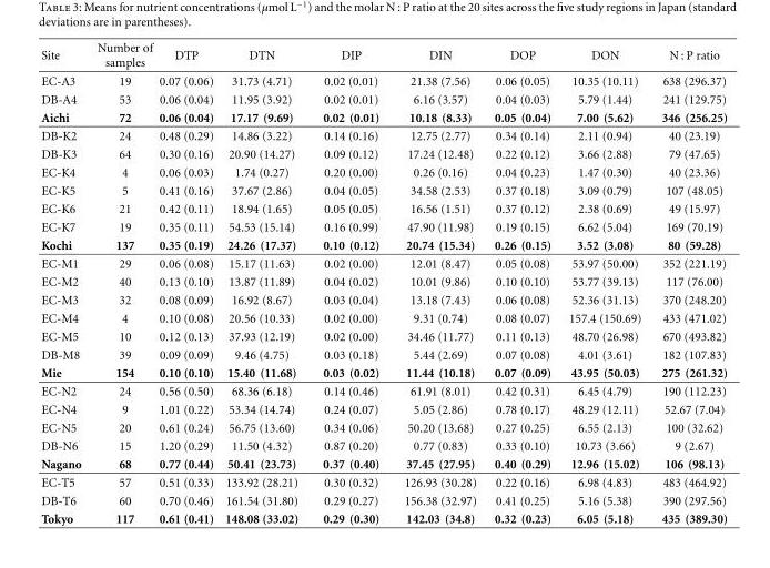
<table><thead><tr><td>Site</td><td>Number of samples</td><td>DTP</td><td>DTN</td><td>DIP</td><td>DIN</td><td>DOP</td><td>DON</td><td>N : P ratio</td></tr></thead><tbody><tr><td>EC-A3</td><td>19</td><td>0.07 (0.06)</td><td>31.73 (4.71)</td><td>0.02 (0.01)</td><td>21.38 (7.56)</td><td>0.06 (0.05)</td><td>10.35 (10.11)</td><td>638 (296.37)</td></tr><tr><td>DB-A4</td><td>53</td><td>0.06 (0.04)</td><td>11.95 (3.92)</td><td>0.02 (0.01)</td><td>6.16 (3.57)</td><td>0.04 (0.03)</td><td>5.79 (1.44)</td><td>241 (129.75)</td></tr><tr><td>Aichi</td><td>72</td><td>0.06 (0.04)</td><td>17.17 (9.69)</td><td>0.02 (0.01)</td><td>10.18 (8.33)</td><td>0.05 (0.04)</td><td>7.00 (5.62)</td><td>346 (256.25)</td></tr><tr><td>DB-K2</td><td>24</td><td>0.48 (0.29)</td><td>14.86 (3.22)</td><td>0.14 (0.16)</td><td>12.75 (2.77)</td><td>0.34 (0.14)</td><td>2.11 (0.94)</td><td>40 (23.19)</td></tr><tr><td>DB-K3</td><td>64</td><td>0.30 (0.16)</td><td>20.90 (14.27)</td><td>0.09 (0.12)</td><td>17.24 (12.48)</td><td>0.22 (0.12)</td><td>3.66 (2.88)</td><td>79 (47.65)</td></tr><tr><td>EC-K4</td><td>4</td><td>0.06 (0.03)</td><td>1.74 (0.27)</td><td>0.20 (0.00)</td><td>0.26 (0.16)</td><td>0.04 (0.23)</td><td>1.47 (0.30)</td><td>40 (23.36)</td></tr><tr><td>EC-K5</td><td>5</td><td>0.41 (0.16)</td><td>37.67 (2.86)</td><td>0.04 (0.05)</td><td>34.58 (2.53)</td><td>0.37 (0.18)</td><td>3.09 (0.79)</td><td>107 (48.05)</td></tr><tr><td>EC-K6</td><td>21</td><td>0.42 (0.11)</td><td>18.94 (1.65)</td><td>0.05 (0.05)</td><td>16.56 (1.51)</td><td>0.37 (0.12)</td><td>2.38 (0.69)</td><td>49 (15.97)</td></tr><tr><td>EC-K7</td><td>19</td><td>0.35 (0.11)</td><td>54.53 (15.14)</td><td>0.16 (0.99)</td><td>47.90 (11.98)</td><td>0.19 (0.15)</td><td>6.62 (5.04)</td><td>169 (70.19)</td></tr><tr><td>Kochi</td><td>137</td><td>0.35 (0.19)</td><td>24.26 (17.37)</td><td>0.10 (0.12)</td><td>20.74 (15.34)</td><td>0.26 (0.15)</td><td>3.52 (3.08)</td><td>80 (59.28)</td></tr><tr><td>EC-M1</td><td>29</td><td>0.06 (0.08)</td><td>15.17 (11.63)</td><td>0.02 (0.00)</td><td>12.01 (8.47)</td><td>0.05 (0.08)</td><td>53.97 (50.00)</td><td>352 (221.19)</td></tr><tr><td>EC-M2</td><td>40</td><td>0.13 (0.10)</td><td>13.87 (11.89)</td><td>0.04 (0.02)</td><td>10.01 (9.86)</td><td>0.10 (0.10)</td><td>53.77 (39.13)</td><td>117 (76.00)</td></tr><tr><td>EC-M3</td><td>32</td><td>0.08 (0.09)</td><td>16.92 (8.67)</td><td>0.03 (0.04)</td><td>13.18 (7.43)</td><td>0.06 (0.08)</td><td>52.36 (31.13)</td><td>370 (248.20)</td></tr><tr><td>EC-M4</td><td>4</td><td>0.10 (0.08)</td><td>20.56 (10.33)</td><td>0.02 (0.00)</td><td>9.31 (0.74)</td><td>0.08 (0.07)</td><td>157.4 (150.69)</td><td>433 (471.02)</td></tr><tr><td>EC-M5</td><td>10</td><td>0.12 (0.13)</td><td>37.93 (12.19)</td><td>0.02 (0.00)</td><td>34.46 (11.77)</td><td>0.11 (0.13)</td><td>48.70 (26.98)</td><td>670 (493.82)</td></tr><tr><td>DB-M8</td><td>39</td><td>0.09 (0.09)</td><td>9.46 (4.75)</td><td>0.03 (0.18)</td><td>5.44 (2.69)</td><td>0.07 (0.08)</td><td>4.01 (3.61)</td><td>182 (107.83)</td></tr><tr><td>Mie</td><td>154</td><td>0.10 (0.10)</td><td>15.40 (11.68)</td><td>0.03 (0.02)</td><td>11.44 (10.18)</td><td>0.07 (0.09)</td><td>43.95 (50.03)</td><td>275 (261.32)</td></tr><tr><td>EC-N2</td><td>24</td><td>0.56 (0.50)</td><td>68.36 (6.18)</td><td>0.14 (0.46)</td><td>61.91 (8.01)</td><td>0.42 (0.31)</td><td>6.45 (4.79)</td><td>190 (112.23)</td></tr><tr><td>EC-N4</td><td>9</td><td>1.01 (0.22)</td><td>53.34 (14.74)</td><td>0.24 (0.07)</td><td>5.05 (2.86)</td><td>0.78 (0.17)</td><td>48.29 (12.11)</td><td>52.67 (7.04)</td></tr><tr><td>EC-N5</td><td>20</td><td>0.61 (0.24)</td><td>56.75 (13.60)</td><td>0.34 (0.06)</td><td>50.20 (13.68)</td><td>0.27 (0.25)</td><td>6.55 (2.13)</td><td>100 (32.62)</td></tr><tr><td>DB-N6</td><td>15</td><td>1.20 (0.29)</td><td>11.50 (4.32)</td><td>0.87 (0.20)</td><td>0.77 (0.83)</td><td>0.33 (0.10)</td><td>10.73 (3.66)</td><td>9 (2.67)</td></tr><tr><td>Nagano</td><td>68</td><td>0.77 (0.44)</td><td>50.41 (23.73)</td><td>0.37 (0.40)</td><td>37.45 (27.95)</td><td>0.40 (0.29)</td><td>12.96 (15.02)</td><td>106 (98.13)</td></tr><tr><td>EC-T5</td><td>57</td><td>0.51 (0.33)</td><td>133.92 (28.21)</td><td>0.30 (0.32)</td><td>126.93 (30.28)</td><td>0.22 (0.16)</td><td>6.98 (4.83)</td><td>483 (464.92)</td></tr><tr><td>DB-T6</td><td>60</td><td>0.70 (0.46)</td><td>161.54 (31.80)</td><td>0.29 (0.27)</td><td>156.38 (32.97)</td><td>0.41 (0.25)</td><td>5.16 (5.38)</td><td>390 (297.56)</td></tr><tr><td>Tokyo</td><td>117</td><td>0.61 (0.41)</td><td>148.08 (33.02)</td><td>0.29 (0.30)</td><td>142.03 (34.8)</td><td>0.32 (0.23)</td><td>6.05 (5.18)</td><td>435 (389.30)</td></tr></tbody></table>